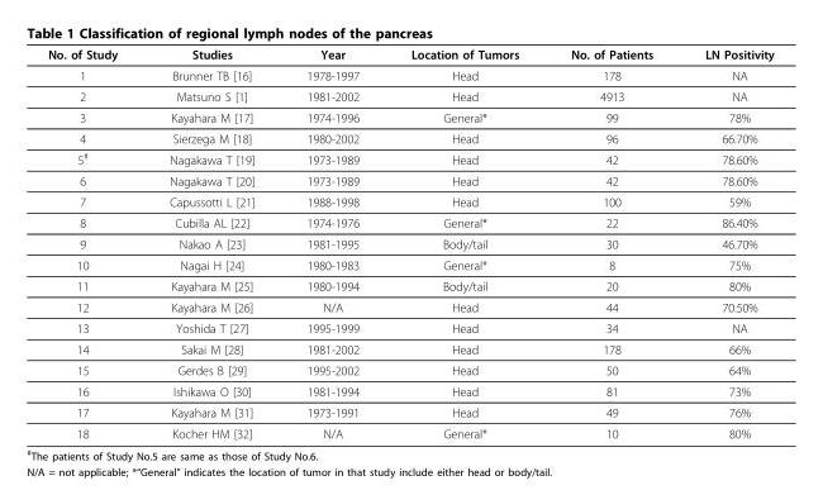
<table><thead><tr><td>No. of Study</td><td>Studies</td><td>Year</td><td>Location of Tumors</td><td>No. of Patients</td><td>LN Positivity</td></tr></thead><tbody><tr><td>1</td><td>Brunner TB [16]</td><td>1978-1997</td><td>Head</td><td>178</td><td>NA</td></tr><tr><td>2</td><td>Matsuno S [1]</td><td>1981-2002</td><td>Head</td><td>4913</td><td>NA</td></tr><tr><td>3</td><td>Kayahara M [17]</td><td>1974-1996</td><td>General*</td><td>99</td><td>78%</td></tr><tr><td>4</td><td>Sierzega M [18]</td><td>1980-2002</td><td>Head</td><td>96</td><td>66.70%</td></tr><tr><td>5<sup>#</sup></td><td>Nagakawa T [19]</td><td>1973-1989</td><td>Head</td><td>42</td><td>78.60%</td></tr><tr><td>6</td><td>Nagakawa T [20]</td><td>1973-1989</td><td>Head</td><td>42</td><td>78.60%</td></tr><tr><td>7</td><td>Capussotti L [21]</td><td>1988-1998</td><td>Head</td><td>100</td><td>59%</td></tr><tr><td>8</td><td>Cubilla AL [22]</td><td>1974-1976</td><td>General*</td><td>22</td><td>86.40%</td></tr><tr><td>9</td><td>Nakao A [23]</td><td>1981-1995</td><td>Body/tail</td><td>30</td><td>46.70%</td></tr><tr><td>10</td><td>Nagai H [24]</td><td>1980-1983</td><td>General*</td><td>8</td><td>75%</td></tr><tr><td>11</td><td>Kayahara M [25]</td><td>1980-1994</td><td>Body/tail</td><td>20</td><td>80%</td></tr><tr><td>12</td><td>Kayahara M [26]</td><td>N/A</td><td>Head</td><td>44</td><td>70.50%</td></tr><tr><td>13</td><td>Yoshida T [27]</td><td>1995-1999</td><td>Head</td><td>34</td><td>NA</td></tr><tr><td>14</td><td>Sakai M [28]</td><td>1981-2002</td><td>Head</td><td>178</td><td>66%</td></tr><tr><td>15</td><td>Gerdes B [29]</td><td>1995-2002</td><td>Head</td><td>50</td><td>64%</td></tr><tr><td>16</td><td>Ishikawa O [30]</td><td>1981-1994</td><td>Head</td><td>81</td><td>73%</td></tr><tr><td>17</td><td>Kayahara M [31]</td><td>1973-1991</td><td>Head</td><td>49</td><td>76%</td></tr><tr><td>18</td><td>Kocher HM [32]</td><td>N/A</td><td>General*</td><td>10</td><td>80%</td></tr></tbody></table>